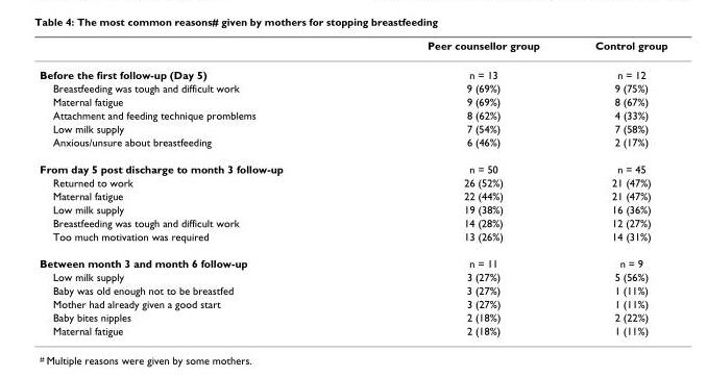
<table><thead><tr><td></td><td>Peer counsellor group</td><td>Control group</td></tr></thead><tbody><tr><td>Before the first follow-up (Day 5)</td><td>n = 13</td><td>n = 12</td></tr><tr><td>Breastfeeding was tough and difficult work</td><td>9 (69%)</td><td>9 (75%)</td></tr><tr><td>Maternal fatigue</td><td>9 (69%)</td><td>8 (67%)</td></tr><tr><td>Attachment and feeding technique promblems</td><td>8 (62%)</td><td>4 (33%)</td></tr><tr><td>Low milk supply</td><td>7 (54%)</td><td>7 (58%)</td></tr><tr><td>Anxious/unsure about breastfeeding</td><td>6 (46%)</td><td>2 (17%)</td></tr><tr><td>From day 5 post discharge to month 3 follow-up</td><td>n = 50</td><td>n = 45</td></tr><tr><td>Returned to work</td><td>26 (52%)</td><td>21 (47%)</td></tr><tr><td>Maternal fatigue</td><td>22 (44%)</td><td>21 (47%)</td></tr><tr><td>Low milk supply</td><td>19 (38%)</td><td>16 (36%)</td></tr><tr><td>Breastfeeding was tough and difficult work</td><td>14 (28%)</td><td>12 (27%)</td></tr><tr><td>Too much motivation was required</td><td>13 (26%)</td><td>14 (31%)</td></tr><tr><td>Between month 3 and month 6 follow-up</td><td>n = 11</td><td>n = 9</td></tr><tr><td>Low milk supply</td><td>3 (27%)</td><td>5 (56%)</td></tr><tr><td>Baby was old enough not to be breastfed</td><td>3 (27%)</td><td>1 (11%)</td></tr><tr><td>Mother had already given a good start</td><td>3 (27%)</td><td>1 (11%)</td></tr><tr><td>Baby bites nipples</td><td>2 (18%)</td><td>2 (22%)</td></tr><tr><td>Maternal fatigue</td><td>2 (18%)</td><td>1 (11%)</td></tr></tbody></table>